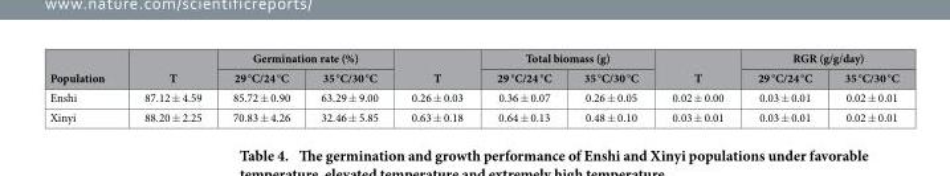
<table><thead><tr><td rowspan="2">Population</td><td rowspan="2">T</td><td colspan="2">Germination rate (%)</td><td rowspan="2">T</td><td colspan="2">Total biomass (g)</td><td rowspan="2">T</td><td colspan="2">RGR (g/g/day)</td></tr><tr><td>29 °C/24 °C</td><td>35 °C/30 °C</td><td>29 °C/24 °C</td><td>35 °C/30 °C</td><td>29 °C/24 °C</td><td>35 °C/30 °C</td></tr></thead><tbody><tr><td>Enshi</td><td>87.12 ± 4.59</td><td>85.72 ± 0.90</td><td>63.29 ± 9.00</td><td>0.26 ± 0.03</td><td>0.36 ± 0.07</td><td>0.26 ± 0.05</td><td>0.02 ± 0.00</td><td>0.03 ± 0.01</td><td>0.02 ± 0.01</td></tr><tr><td>Xinyi</td><td>88.20 ± 2.25</td><td>70.83 ± 4.26</td><td>32.46 ± 5.85</td><td>0.63 ± 0.18</td><td>0.64 ± 0.13</td><td>0.48 ± 0.10</td><td>0.03 ± 0.01</td><td>0.03 ± 0.01</td><td>0.02 ± 0.01</td></tr></tbody></table>